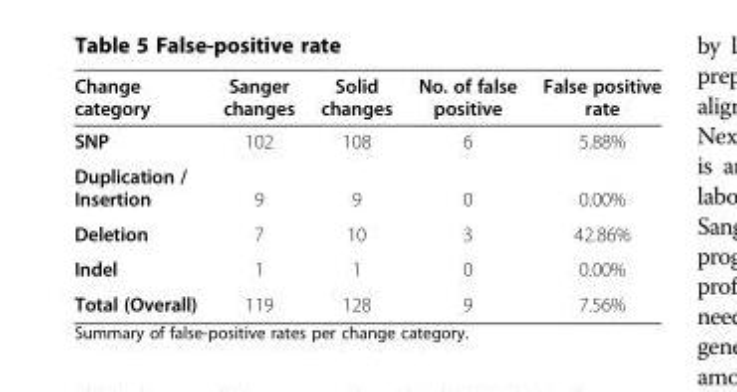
<table><thead><tr><td>Change category</td><td>Sanger changes</td><td>Solid changes</td><td>No. of false positive</td><td>False positive rate</td></tr></thead><tbody><tr><td>SNP</td><td>102</td><td>108</td><td>6</td><td>5.88%</td></tr><tr><td>Duplication / Insertion</td><td>9</td><td>9</td><td>0</td><td>0.00%</td></tr><tr><td>Deletion</td><td>7</td><td>10</td><td>3</td><td>42.86%</td></tr><tr><td>Indel</td><td>1</td><td>1</td><td>0</td><td>0.00%</td></tr><tr><td>Total (Overall)</td><td>119</td><td>128</td><td>9</td><td>7.56%</td></tr></tbody></table>